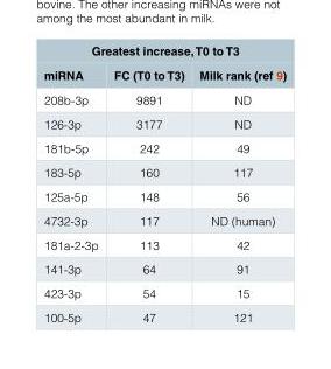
<table><thead><tr><td colspan="3">Greatest increase, T0 to T3</td></tr><tr><td>miRNA</td><td>FC (T0 to T3)</td><td>Milk rank (ref 9)</td></tr></thead><tbody><tr><td>208b-3p</td><td>9891</td><td>ND</td></tr><tr><td>126-3p</td><td>3177</td><td>ND</td></tr><tr><td>181b-5p</td><td>242</td><td>49</td></tr><tr><td>183-5p</td><td>160</td><td>117</td></tr><tr><td>125a-5p</td><td>148</td><td>56</td></tr><tr><td>4732-3p</td><td>117</td><td>ND (human)</td></tr><tr><td>181a-2-3p</td><td>113</td><td>42</td></tr><tr><td>141-3p</td><td>64</td><td>91</td></tr><tr><td>423-3p</td><td>54</td><td>15</td></tr><tr><td>100-5p</td><td>47</td><td>121</td></tr></tbody></table>